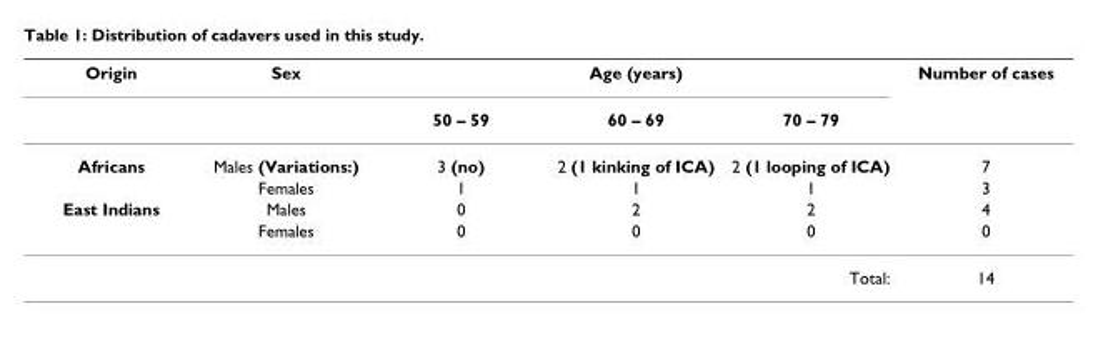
<table><thead><tr><td rowspan="2">Origin</td><td rowspan="2">Sex</td><td colspan="3">Age (years)</td><td rowspan="2">Number of cases</td></tr><tr><td>50 – 59</td><td>60 – 69</td><td>70 – 79</td></tr></thead><tbody><tr><td rowspan="2">Africans</td><td>Males (Variations:)</td><td>3 (no)</td><td>2 (1 kinking of ICA)</td><td>2 (1 looping of ICA)</td><td>7</td></tr><tr><td>Females</td><td>1</td><td>1</td><td>1</td><td>3</td></tr><tr><td rowspan="3">East Indians</td><td>Males</td><td>0</td><td>2</td><td>2</td><td>4</td></tr><tr><td>Females</td><td>0</td><td>0</td><td>0</td><td>0</td></tr><tr><td></td><td></td><td></td><td>Total:</td><td>14</td></tr></tbody></table>